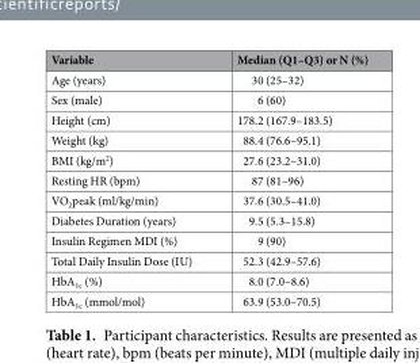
<table><thead><tr><td>Variable</td><td>Median (Q1–Q3) or N (%)</td></tr></thead><tbody><tr><td>Age (years)</td><td>30 (25–32)</td></tr><tr><td>Sex (male)</td><td>6 (60)</td></tr><tr><td>Height (cm)</td><td>178.2 (167.9–183.5)</td></tr><tr><td>Weight (kg)</td><td>88.4 (76.6–95.1)</td></tr><tr><td>BMI (kg/m<sup>2</sup>)</td><td>27.6 (23.2–31.0)</td></tr><tr><td>Resting HR (bpm)</td><td>87 (81–96)</td></tr><tr><td>VO<sub>2</sub>peak (ml/kg/min)</td><td>37.6 (30.5–41.0)</td></tr><tr><td>Diabetes Duration (years)</td><td>9.5 (5.3–15.8)</td></tr><tr><td>Insulin Regimen MDI (%)</td><td>9 (90)</td></tr><tr><td>Total Daily Insulin Dose (IU)</td><td>52.3 (42.9–57.6)</td></tr><tr><td>HbA<sub>1c</sub> (%)</td><td>8.0 (7.0–8.6)</td></tr><tr><td>HbA<sub>1c</sub> (mmol/mol)</td><td>63.9 (53.0–70.5)</td></tr></tbody></table>